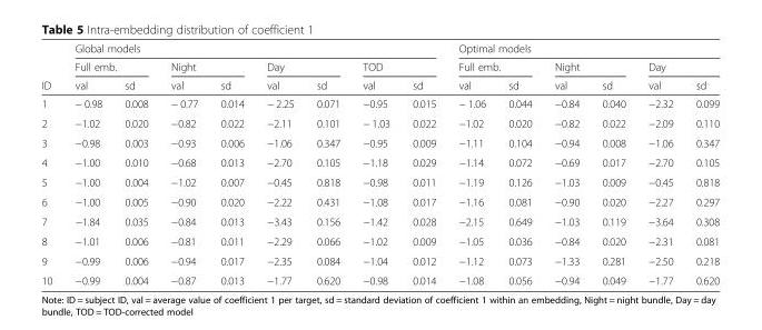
<table><thead><tr><td rowspan="3">ID</td><td colspan="8">Global models</td><td colspan="6">Optimal models</td></tr><tr><td colspan="2">Full emb.</td><td colspan="2">Night</td><td colspan="2">Day</td><td colspan="2">TOD</td><td colspan="2">Full emb.</td><td colspan="2">Night</td><td colspan="2">Day</td></tr><tr><td>val</td><td>sd</td><td>val</td><td>sd</td><td>val</td><td>sd</td><td>val</td><td>sd</td><td>val</td><td>sd</td><td>val</td><td>sd</td><td>val</td><td>sd</td></tr></thead><tbody><tr><td>1</td><td>− 0.98</td><td>0.008</td><td>− 0.77</td><td>0.014</td><td>− 2.25</td><td>0.071</td><td>−0.95</td><td>0.015</td><td>− 1.06</td><td>0.044</td><td>−0.84</td><td>0.040</td><td>−2.32</td><td>0.099</td></tr><tr><td>2</td><td>−1.02</td><td>0.020</td><td>−0.82</td><td>0.022</td><td>−2.11</td><td>0.101</td><td>− 1.03</td><td>0.022</td><td>−1.02</td><td>0.020</td><td>−0.82</td><td>0.022</td><td>−2.09</td><td>0.110</td></tr><tr><td>3</td><td>−0.98</td><td>0.003</td><td>−0.93</td><td>0.006</td><td>−1.06</td><td>0.347</td><td>−0.95</td><td>0.009</td><td>−1.11</td><td>0.104</td><td>−0.94</td><td>0.008</td><td>−1.06</td><td>0.347</td></tr><tr><td>4</td><td>−1.00</td><td>0.010</td><td>−0.68</td><td>0.013</td><td>−2.70</td><td>0.105</td><td>−1.18</td><td>0.029</td><td>−1.14</td><td>0.072</td><td>−0.69</td><td>0.017</td><td>−2.70</td><td>0.105</td></tr><tr><td>5</td><td>−1.00</td><td>0.004</td><td>−1.02</td><td>0.007</td><td>−0.45</td><td>0.818</td><td>−0.98</td><td>0.011</td><td>−1.19</td><td>0.126</td><td>−1.03</td><td>0.009</td><td>−0.45</td><td>0.818</td></tr><tr><td>6</td><td>−1.00</td><td>0.005</td><td>−0.90</td><td>0.020</td><td>−2.22</td><td>0.431</td><td>−1.08</td><td>0.017</td><td>−1.16</td><td>0.081</td><td>−0.90</td><td>0.020</td><td>−2.27</td><td>0.297</td></tr><tr><td>7</td><td>−1.84</td><td>0.035</td><td>−0.84</td><td>0.013</td><td>−3.43</td><td>0.156</td><td>−1.42</td><td>0.028</td><td>−2.15</td><td>0.649</td><td>−1.03</td><td>0.119</td><td>−3.64</td><td>0.308</td></tr><tr><td>8</td><td>−1.01</td><td>0.006</td><td>−0.81</td><td>0.011</td><td>−2.29</td><td>0.066</td><td>−1.02</td><td>0.009</td><td>−1.05</td><td>0.036</td><td>−0.84</td><td>0.020</td><td>−2.31</td><td>0.081</td></tr><tr><td>9</td><td>−0.99</td><td>0.006</td><td>−0.94</td><td>0.017</td><td>−2.35</td><td>0.084</td><td>−1.04</td><td>0.012</td><td>−1.12</td><td>0.073</td><td>−1.33</td><td>0.281</td><td>−2.50</td><td>0.218</td></tr><tr><td>10</td><td>−0.99</td><td>0.004</td><td>−0.87</td><td>0.013</td><td>−1.77</td><td>0.620</td><td>−0.98</td><td>0.014</td><td>−1.08</td><td>0.056</td><td>−0.94</td><td>0.049</td><td>−1.77</td><td>0.620</td></tr></tbody></table>